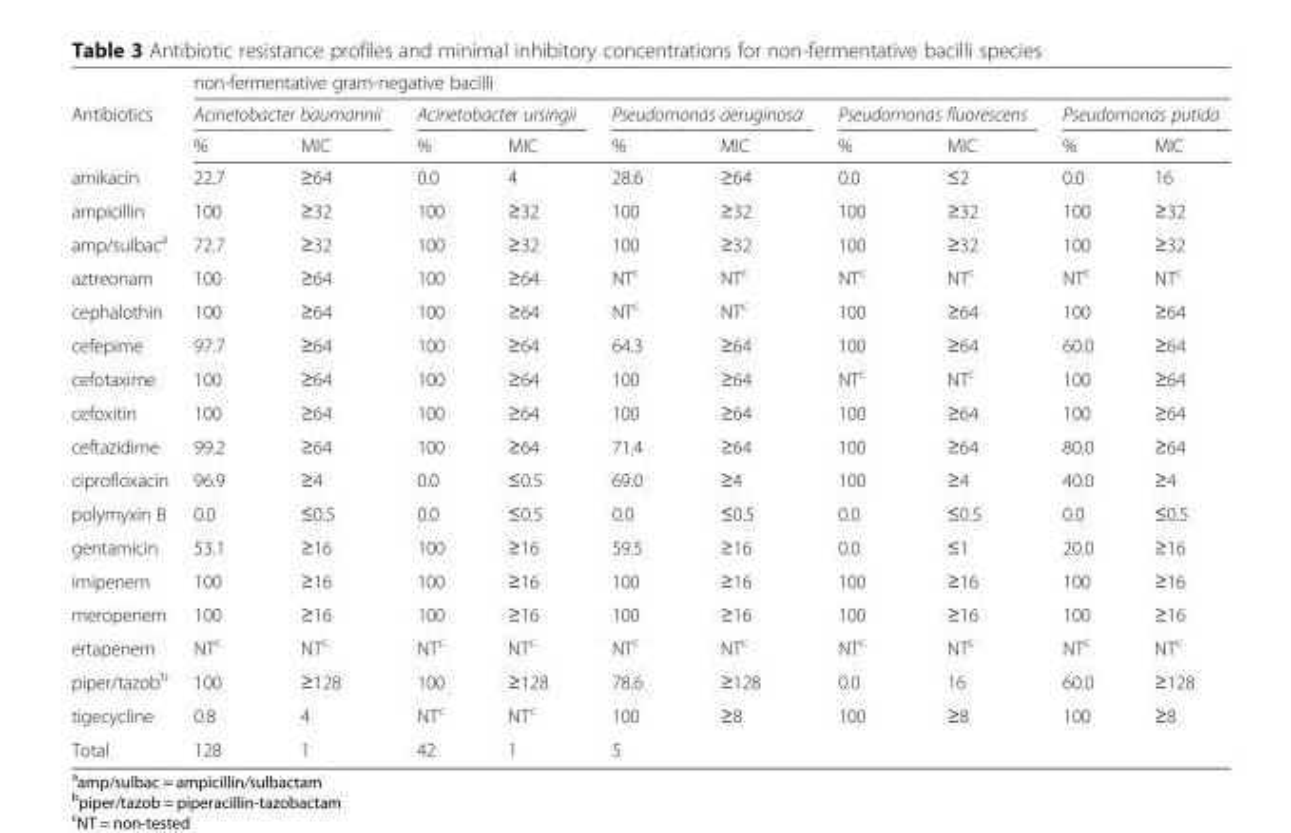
<table><thead><tr><td rowspan="3">Antibiotics</td><td colspan="10">non-fermentative gram-negative bacilli</td></tr><tr><td colspan="2">Acinetobacter baumannii</td><td colspan="2">Acinetobacter ursingii</td><td colspan="2">Pseudomonas aeruginosa</td><td colspan="2">Pseudomonas fluorescens</td><td colspan="2">Pseudomonas putida</td></tr><tr><td>%</td><td>MIC</td><td>%</td><td>MIC</td><td>%</td><td>MIC</td><td>%</td><td>MIC</td><td>%</td><td>MIC</td></tr></thead><tbody><tr><td>amikacin</td><td>22.7</td><td>≥64</td><td>0.0</td><td>4</td><td>28.6</td><td>≥64</td><td>0.0</td><td>≤2</td><td>0.0</td><td>16</td></tr><tr><td>ampicillin</td><td>100</td><td>≥32</td><td>100</td><td>≥32</td><td>100</td><td>≥32</td><td>100</td><td>≥32</td><td>100</td><td>≥32</td></tr><tr><td>amp/sulbac<sup>a</sup></td><td>72.7</td><td>≥32</td><td>100</td><td>≥32</td><td>100</td><td>≥32</td><td>100</td><td>≥32</td><td>100</td><td>≥32</td></tr><tr><td>aztreonam</td><td>100</td><td>≥64</td><td>100</td><td>≥64</td><td>NT<sup>c</sup></td><td>NT<sup>c</sup></td><td>NT<sup>c</sup></td><td>NT<sup>c</sup></td><td>NT<sup>c</sup></td><td>NT<sup>c</sup></td></tr><tr><td>cephalothin</td><td>100</td><td>≥64</td><td>100</td><td>≥64</td><td>NT<sup>c</sup></td><td>NT<sup>c</sup></td><td>100</td><td>≥64</td><td>100</td><td>≥64</td></tr><tr><td>cefepime</td><td>97.7</td><td>≥64</td><td>100</td><td>≥64</td><td>64.3</td><td>≥64</td><td>100</td><td>≥64</td><td>60.0</td><td>≥64</td></tr><tr><td>cefotaxime</td><td>100</td><td>≥64</td><td>100</td><td>≥64</td><td>100</td><td>≥64</td><td>NT<sup>c</sup></td><td>NT<sup>c</sup></td><td>100</td><td>≥64</td></tr><tr><td>cefoxitin</td><td>100</td><td>≥64</td><td>100</td><td>≥64</td><td>100</td><td>≥64</td><td>100</td><td>≥64</td><td>100</td><td>≥64</td></tr><tr><td>ceftazidime</td><td>99.2</td><td>≥64</td><td>100</td><td>≥64</td><td>71.4</td><td>≥64</td><td>100</td><td>≥64</td><td>80.0</td><td>≥64</td></tr><tr><td>ciprofloxacin</td><td>96.9</td><td>≥4</td><td>0.0</td><td>≤0.5</td><td>69.0</td><td>≥4</td><td>100</td><td>≥4</td><td>40.0</td><td>≥4</td></tr><tr><td>polymyxin B</td><td>0.0</td><td>≤0.5</td><td>0.0</td><td>≤0.5</td><td>0.0</td><td>≤0.5</td><td>0.0</td><td>≤0.5</td><td>0.0</td><td>≤0.5</td></tr><tr><td>gentamicin</td><td>53.1</td><td>≥16</td><td>100</td><td>≥16</td><td>59.5</td><td>≥16</td><td>0.0</td><td>≤1</td><td>20.0</td><td>≥16</td></tr><tr><td>imipenem</td><td>100</td><td>≥16</td><td>100</td><td>≥16</td><td>100</td><td>≥16</td><td>100</td><td>≥16</td><td>100</td><td>≥16</td></tr><tr><td>meropenem</td><td>100</td><td>≥16</td><td>100</td><td>≥16</td><td>100</td><td>≥16</td><td>100</td><td>≥16</td><td>100</td><td>≥16</td></tr><tr><td>ertapenem</td><td>NT<sup>c</sup></td><td>NT<sup>c</sup></td><td>NT<sup>c</sup></td><td>NT<sup>c</sup></td><td>NT<sup>c</sup></td><td>NT<sup>c</sup></td><td>NT<sup>c</sup></td><td>NT<sup>c</sup></td><td>NT<sup>c</sup></td><td>NT<sup>c</sup></td></tr><tr><td>piper/tazob<sup>b</sup></td><td>100</td><td>≥128</td><td>100</td><td>≥128</td><td>78.6</td><td>≥128</td><td>0.0</td><td>16</td><td>60.0</td><td>≥128</td></tr><tr><td>tigecycline</td><td>0.8</td><td>4</td><td>NT<sup>c</sup></td><td>NT<sup>c</sup></td><td>100</td><td>≥8</td><td>100</td><td>≥8</td><td>100</td><td>≥8</td></tr><tr><td>Total</td><td>128</td><td>1</td><td>42</td><td>1</td><td>5</td><td></td><td></td><td></td><td></td><td></td></tr></tbody></table>